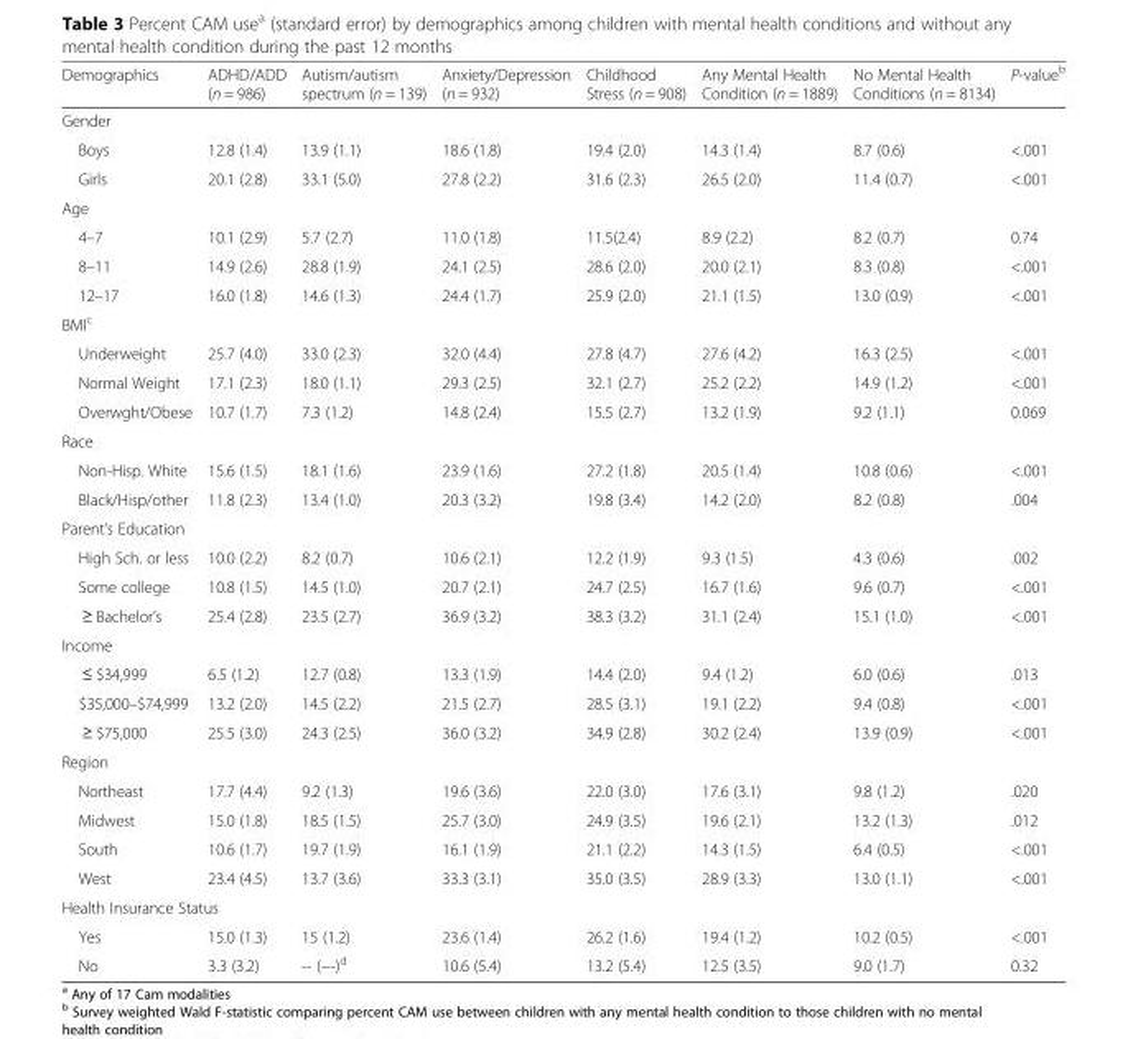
<table><thead><tr><td>Demographics</td><td>ADHD/ADD (n = 986)</td><td>Autism/autism spectrum (n = 139)</td><td>Anxiety/Depression (n = 932)</td><td>Childhood Stress (n = 908)</td><td>Any Mental Health Condition (n = 1889)</td><td>No Mental Health Conditions (n = 8134)</td><td>P-value<sup>b</sup></td></tr></thead><tbody><tr><td colspan="8">Gender</td></tr><tr><td>Boys</td><td>12.8 (1.4)</td><td>13.9 (1.1)</td><td>18.6 (1.8)</td><td>19.4 (2.0)</td><td>14.3 (1.4)</td><td>8.7 (0.6)</td><td>&lt;.001</td></tr><tr><td>Girls</td><td>20.1 (2.8)</td><td>33.1 (5.0)</td><td>27.8 (2.2)</td><td>31.6 (2.3)</td><td>26.5 (2.0)</td><td>11.4 (0.7)</td><td>&lt;.001</td></tr><tr><td colspan="8">Age</td></tr><tr><td>4–7</td><td>10.1 (2.9)</td><td>5.7 (2.7)</td><td>11.0 (1.8)</td><td>11.5(2.4)</td><td>8.9 (2.2)</td><td>8.2 (0.7)</td><td>0.74</td></tr><tr><td>8–11</td><td>14.9 (2.6)</td><td>28.8 (1.9)</td><td>24.1 (2.5)</td><td>28.6 (2.0)</td><td>20.0 (2.1)</td><td>8.3 (0.8)</td><td>&lt;.001</td></tr><tr><td>12–17</td><td>16.0 (1.8)</td><td>14.6 (1.3)</td><td>24.4 (1.7)</td><td>25.9 (2.0)</td><td>21.1 (1.5)</td><td>13.0 (0.9)</td><td>&lt;.001</td></tr><tr><td colspan="8">BMI<sup>c</sup></td></tr><tr><td>Underweight</td><td>25.7 (4.0)</td><td>33.0 (2.3)</td><td>32.0 (4.4)</td><td>27.8 (4.7)</td><td>27.6 (4.2)</td><td>16.3 (2.5)</td><td>&lt;.001</td></tr><tr><td>Normal Weight</td><td>17.1 (2.3)</td><td>18.0 (1.1)</td><td>29.3 (2.5)</td><td>32.1 (2.7)</td><td>25.2 (2.2)</td><td>14.9 (1.2)</td><td>&lt;.001</td></tr><tr><td>Overwght/Obese</td><td>10.7 (1.7)</td><td>7.3 (1.2)</td><td>14.8 (2.4)</td><td>15.5 (2.7)</td><td>13.2 (1.9)</td><td>9.2 (1.1)</td><td>0.069</td></tr><tr><td colspan="8">Race</td></tr><tr><td>Non-Hisp. White</td><td>15.6 (1.5)</td><td>18.1 (1.6)</td><td>23.9 (1.6)</td><td>27.2 (1.8)</td><td>20.5 (1.4)</td><td>10.8 (0.6)</td><td>&lt;.001</td></tr><tr><td>Black/Hisp/other</td><td>11.8 (2.3)</td><td>13.4 (1.0)</td><td>20.3 (3.2)</td><td>19.8 (3.4)</td><td>14.2 (2.0)</td><td>8.2 (0.8)</td><td>.004</td></tr><tr><td colspan="8">Parent’s Education</td></tr><tr><td>High Sch. or less</td><td>10.0 (2.2)</td><td>8.2 (0.7)</td><td>10.6 (2.1)</td><td>12.2 (1.9)</td><td>9.3 (1.5)</td><td>4.3 (0.6)</td><td>.002</td></tr><tr><td>Some college</td><td>10.8 (1.5)</td><td>14.5 (1.0)</td><td>20.7 (2.1)</td><td>24.7 (2.5)</td><td>16.7 (1.6)</td><td>9.6 (0.7)</td><td>&lt;.001</td></tr><tr><td>≥ Bachelor’s</td><td>25.4 (2.8)</td><td>23.5 (2.7)</td><td>36.9 (3.2)</td><td>38.3 (3.2)</td><td>31.1 (2.4)</td><td>15.1 (1.0)</td><td>&lt;.001</td></tr><tr><td colspan="8">Income</td></tr><tr><td>≤ $34,999</td><td>6.5 (1.2)</td><td>12.7 (0.8)</td><td>13.3 (1.9)</td><td>14.4 (2.0)</td><td>9.4 (1.2)</td><td>6.0 (0.6)</td><td>.013</td></tr><tr><td>$35,000–$74,999</td><td>13.2 (2.0)</td><td>14.5 (2.2)</td><td>21.5 (2.7)</td><td>28.5 (3.1)</td><td>19.1 (2.2)</td><td>9.4 (0.8)</td><td>&lt;.001</td></tr><tr><td>≥ $75,000</td><td>25.5 (3.0)</td><td>24.3 (2.5)</td><td>36.0 (3.2)</td><td>34.9 (2.8)</td><td>30.2 (2.4)</td><td>13.9 (0.9)</td><td>&lt;.001</td></tr><tr><td colspan="8">Region</td></tr><tr><td>Northeast</td><td>17.7 (4.4)</td><td>9.2 (1.3)</td><td>19.6 (3.6)</td><td>22.0 (3.0)</td><td>17.6 (3.1)</td><td>9.8 (1.2)</td><td>.020</td></tr><tr><td>Midwest</td><td>15.0 (1.8)</td><td>18.5 (1.5)</td><td>25.7 (3.0)</td><td>24.9 (3.5)</td><td>19.6 (2.1)</td><td>13.2 (1.3)</td><td>.012</td></tr><tr><td>South</td><td>10.6 (1.7)</td><td>19.7 (1.9)</td><td>16.1 (1.9)</td><td>21.1 (2.2)</td><td>14.3 (1.5)</td><td>6.4 (0.5)</td><td>&lt;.001</td></tr><tr><td>West</td><td>23.4 (4.5)</td><td>13.7 (3.6)</td><td>33.3 (3.1)</td><td>35.0 (3.5)</td><td>28.9 (3.3)</td><td>13.0 (1.1)</td><td>&lt;.001</td></tr><tr><td colspan="8">Health Insurance Status</td></tr><tr><td>Yes</td><td>15.0 (1.3)</td><td>15 (1.2)</td><td>23.6 (1.4)</td><td>26.2 (1.6)</td><td>19.4 (1.2)</td><td>10.2 (0.5)</td><td>&lt;.001</td></tr><tr><td>No</td><td>3.3 (3.2)</td><td>-- (−-)<sup>d</sup></td><td>10.6 (5.4)</td><td>13.2 (5.4)</td><td>12.5 (3.5)</td><td>9.0 (1.7)</td><td>0.32</td></tr></tbody></table>